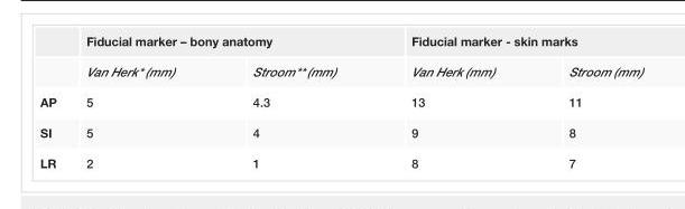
<table><thead><tr><td rowspan="2"></td><td colspan="2">Fiducial marker – bony anatomy</td><td colspan="2">Fiducial marker - skin marks</td></tr><tr><td>Van Herk* (mm)</td><td>Stroom** (mm)</td><td>Van Herk (mm)</td><td>Stroom (mm)</td></tr></thead><tbody><tr><td>AP</td><td>5</td><td>4.3</td><td>13</td><td>11</td></tr><tr><td>SI</td><td>5</td><td>4</td><td>9</td><td>8</td></tr><tr><td>LR</td><td>2</td><td>1</td><td>8</td><td>7</td></tr></tbody></table>